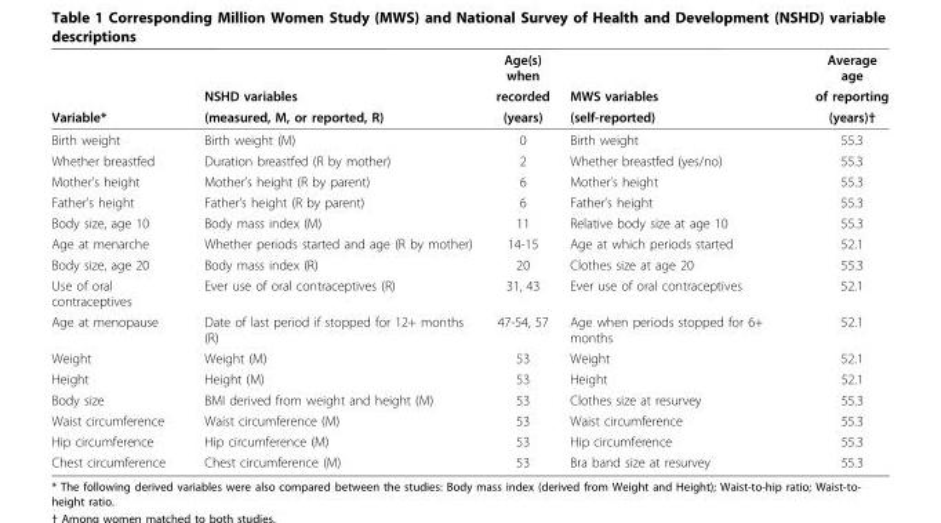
<table><thead><tr><td rowspan="3">Variable*</td><td rowspan="3">NSHD variables (measured, M, or reported, R)</td><td rowspan="3">Age(s) when recorded (years)</td><td rowspan="3">MWS variables (self-reported)</td><td rowspan="3">Average age of reporting (years)†</td></tr><tr></tr><tr></tr></thead><tbody><tr><td>Birth weight</td><td>Birth weight (M)</td><td>0</td><td>Birth weight</td><td>55.3</td></tr><tr><td>Whether breastfed</td><td>Duration breastfed (R by mother)</td><td>2</td><td>Whether breastfed (yes/no)</td><td>55.3</td></tr><tr><td>Mother’s height</td><td>Mother’s height (R by parent)</td><td>6</td><td>Mother’s height</td><td>55.3</td></tr><tr><td>Father’s height</td><td>Father’s height (R by parent)</td><td>6</td><td>Father’s height</td><td>55.3</td></tr><tr><td>Body size, age 10</td><td>Body mass index (M)</td><td>11</td><td>Relative body size at age 10</td><td>55.3</td></tr><tr><td>Age at menarche</td><td>Whether periods started and age (R by mother)</td><td>14-15</td><td>Age at which periods started</td><td>52.1</td></tr><tr><td>Body size, age 20</td><td>Body mass index (R)</td><td>20</td><td>Clothes size at age 20</td><td>55.3</td></tr><tr><td>Use of oral contraceptives</td><td>Ever use of oral contraceptives (R)</td><td>31, 43</td><td>Ever use of oral contraceptives</td><td>52.1</td></tr><tr><td>Age at menopause</td><td>Date of last period if stopped for 12+ months (R)</td><td>47-54, 57</td><td>Age when periods stopped for 6+ months</td><td>52.1</td></tr><tr><td>Weight</td><td>Weight (M)</td><td>53</td><td>Weight</td><td>52.1</td></tr><tr><td>Height</td><td>Height (M)</td><td>53</td><td>Height</td><td>52.1</td></tr><tr><td>Body size</td><td>BMI derived from weight and height (M)</td><td>53</td><td>Clothes size at resurvey</td><td>55.3</td></tr><tr><td>Waist circumference</td><td>Waist circumference (M)</td><td>53</td><td>Waist circumference</td><td>55.3</td></tr><tr><td>Hip circumference</td><td>Hip circumference (M)</td><td>53</td><td>Hip circumference</td><td>55.3</td></tr><tr><td>Chest circumference</td><td>Chest circumference (M)</td><td>53</td><td>Bra band size at resurvey</td><td>55.3</td></tr></tbody></table>